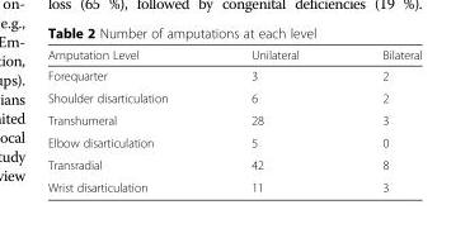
<table><thead><tr><td>Amputation Level</td><td>Unilateral</td><td>Bilateral</td></tr></thead><tbody><tr><td>Forequarter</td><td>3</td><td>2</td></tr><tr><td>Shoulder disarticulation</td><td>6</td><td>2</td></tr><tr><td>Transhumeral</td><td>28</td><td>3</td></tr><tr><td>Elbow disarticulation</td><td>5</td><td>0</td></tr><tr><td>Transradial</td><td>42</td><td>8</td></tr><tr><td>Wrist disarticulation</td><td>11</td><td>3</td></tr></tbody></table>